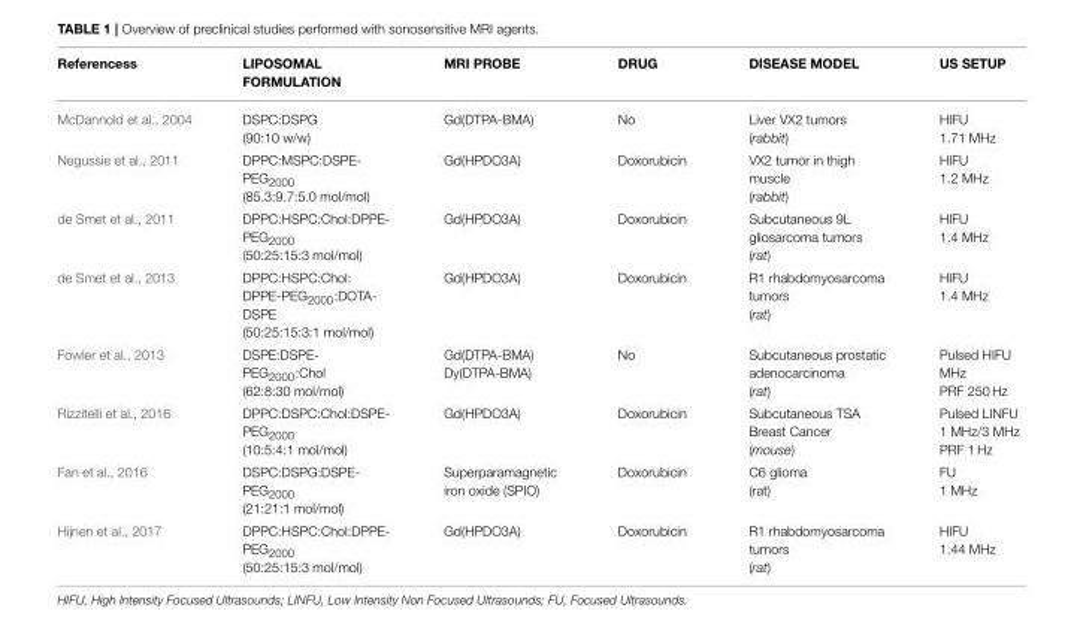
<table><thead><tr><td>Referencess</td><td>LIPOSOMAL FORMULATION</td><td>MRI PROBE</td><td>DRUG</td><td>DISEASE MODEL</td><td>US SETUP</td></tr></thead><tbody><tr><td>McDannold et al., 2004</td><td>DSPC:DSPG (90:10 w/w)</td><td>Gd(DTPA-BMA)</td><td>No</td><td>Liver VX2 tumors (rabbit)</td><td>HIFU 1.71 MHz</td></tr><tr><td>Negussie et al., 2011</td><td>DPPC:MSPC:DSPE- PEG<sub>2000</sub> (85.3:9.7:5.0 mol/mol)</td><td>Gd(HPDO3A)</td><td>Doxorubicin</td><td>VX2 tumor in thigh muscle (rabbit)</td><td>HIFU 1.2 MHz</td></tr><tr><td>de Smet et al., 2011</td><td>DPPC:HSPC:Chol:DPPE- PEG<sub>2000</sub> (50:25:15:3 mol/mol)</td><td>Gd(HPDO3A)</td><td>Doxorubicin</td><td>Subcutaneous 9L gliosarcoma tumors (rat)</td><td>HIFU 1.4 MHz</td></tr><tr><td>de Smet et al., 2013</td><td>DPPC:HSPC:Chol: DPPE-PEG<sub>2000</sub>:DOTA- DSPE (50:25:15:3:1 mol/mol)</td><td>Gd(HPDO3A)</td><td>Doxorubicin</td><td>R1 rhabdomyosarcoma tumors (rat)</td><td>HIFU 1.4 MHz</td></tr><tr><td>Fowler et al., 2013</td><td>DSPE:DSPE- PEG<sub>2000</sub>:Chol (62:8:30 mol/mol)</td><td>Gd(DTPA-BMA) Dy(DTPA-BMA)</td><td>No</td><td>Subcutaneous prostatic adenocarcinoma (rat)</td><td>Pulsed HIFU MHz PRF 250 Hz</td></tr><tr><td>Rizzitelli et al., 2016</td><td>DPPC:DSPC:Chol:DSPE- PEG<sub>2000</sub> (10:5:4:1 mol/mol)</td><td>Gd(HPDO3A)</td><td>Doxorubicin</td><td>Subcutaneous TSA Breast Cancer (mouse)</td><td>Pulsed LINFU 1 MHz/3 MHz PRF 1 Hz</td></tr><tr><td>Fan et al., 2016</td><td>DSPC:DSPG:DSPE- PEG<sub>2000</sub> (21:21:1 mol/mol)</td><td>Superparamagnetic iron oxide (SPIO)</td><td>Doxorubicin</td><td>C6 glioma (rat)</td><td>FU 1 MHz</td></tr><tr><td>Hijnen et al., 2017</td><td>DPPC:HSPC:Chol:DPPE- PEG<sub>2000</sub> (50:25:15:3 mol/mol)</td><td>Gd(HPDO3A)</td><td>Doxorubicin</td><td>R1 rhabdomyosarcoma tumors (rat)</td><td>HIFU 1.44 MHz</td></tr></tbody></table>